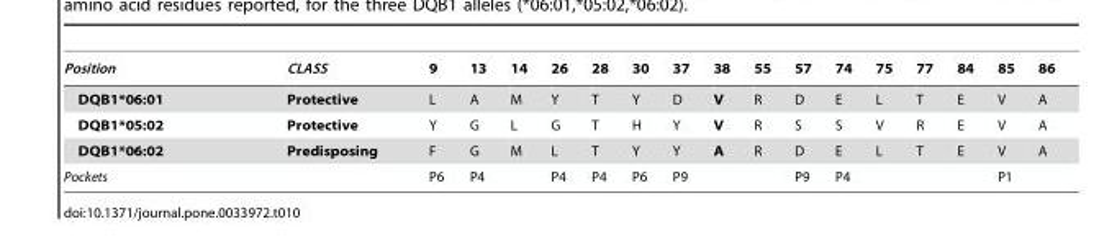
<table><thead><tr><td>Position</td><td>CLASS</td><td>9</td><td>13</td><td>14</td><td>26</td><td>28</td><td>30</td><td>37</td><td>38</td><td>55</td><td>57</td><td>74</td><td>75</td><td>77</td><td>84</td><td>85</td><td>86</td></tr></thead><tbody><tr><td>DQB1*06:01</td><td>Protective</td><td>L</td><td>A</td><td>M</td><td>Y</td><td>T</td><td>Y</td><td>D</td><td>V</td><td>R</td><td>D</td><td>E</td><td>L</td><td>T</td><td>E</td><td>V</td><td>A</td></tr><tr><td>DQB1*05:02</td><td>Protective</td><td>Y</td><td>G</td><td>L</td><td>G</td><td>T</td><td>H</td><td>Y</td><td>V</td><td>R</td><td>S</td><td>S</td><td>V</td><td>R</td><td>E</td><td>V</td><td>A</td></tr><tr><td>DQB1*06:02</td><td>Predisposing</td><td>F</td><td>G</td><td>M</td><td>L</td><td>T</td><td>Y</td><td>Y</td><td>A</td><td>R</td><td>D</td><td>E</td><td>L</td><td>T</td><td>E</td><td>V</td><td>A</td></tr><tr><td>Pockets</td><td></td><td>P6</td><td>P4</td><td></td><td>P4</td><td>P4</td><td>P6</td><td>P9</td><td></td><td></td><td>P9</td><td>P4</td><td></td><td></td><td></td><td>P1</td><td></td></tr></tbody></table>